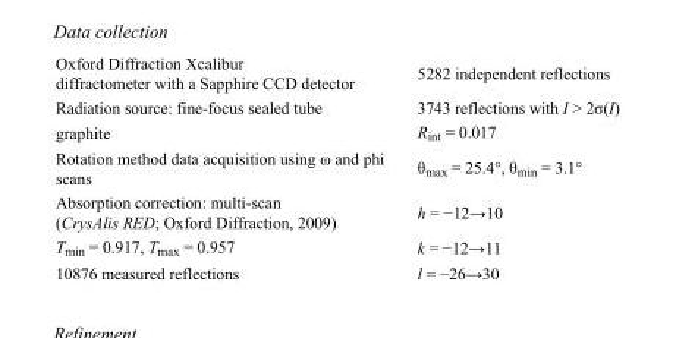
<table><tbody><tr><td>Oxford Diffraction Xcalibur diffractometer with a Sapphire CCD detector</td><td>5282 independent reflections</td></tr><tr><td>Radiation source: fine-focus sealed tube</td><td>3743 reflections with I &gt; 2σ(I)</td></tr><tr><td>graphite</td><td>R<sub>int</sub> = 0.017</td></tr><tr><td>Rotation method data acquisition using ω and phi scans</td><td>θ<sub>max</sub> = 25.4°, θ<sub>min</sub> = 3.1°</td></tr><tr><td>Absorption correction: multi-scan (CrysAlis RED; Oxford Diffraction, 2009)</td><td>h = −12→10</td></tr><tr><td>T<sub>min</sub> = 0.917, T<sub>max</sub> = 0.957</td><td>k = −12→11</td></tr><tr><td>10876 measured reflections</td><td>l = −26→30</td></tr></tbody></table>